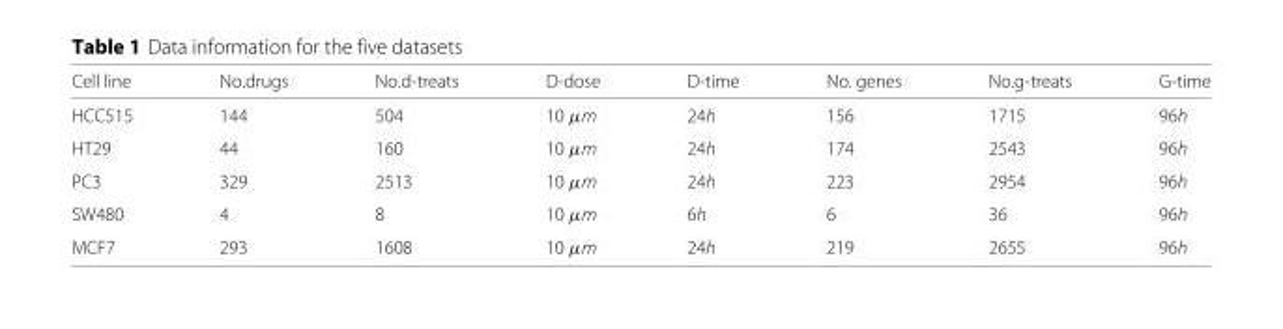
<table><thead><tr><td>Cell line</td><td>No.drugs</td><td>No.d-treats</td><td>D-dose</td><td>D-time</td><td>No. genes</td><td>No.g-treats</td><td>G-time</td></tr></thead><tbody><tr><td>HCC515</td><td>144</td><td>504</td><td>10 μm</td><td>24h</td><td>156</td><td>1715</td><td>96h</td></tr><tr><td>HT29</td><td>44</td><td>160</td><td>10 μm</td><td>24h</td><td>174</td><td>2543</td><td>96h</td></tr><tr><td>PC3</td><td>329</td><td>2513</td><td>10 μm</td><td>24h</td><td>223</td><td>2954</td><td>96h</td></tr><tr><td>SW480</td><td>4</td><td>8</td><td>10 μm</td><td>6h</td><td>6</td><td>36</td><td>96h</td></tr><tr><td>MCF7</td><td>293</td><td>1608</td><td>10 μm</td><td>24h</td><td>219</td><td>2655</td><td>96h</td></tr></tbody></table>